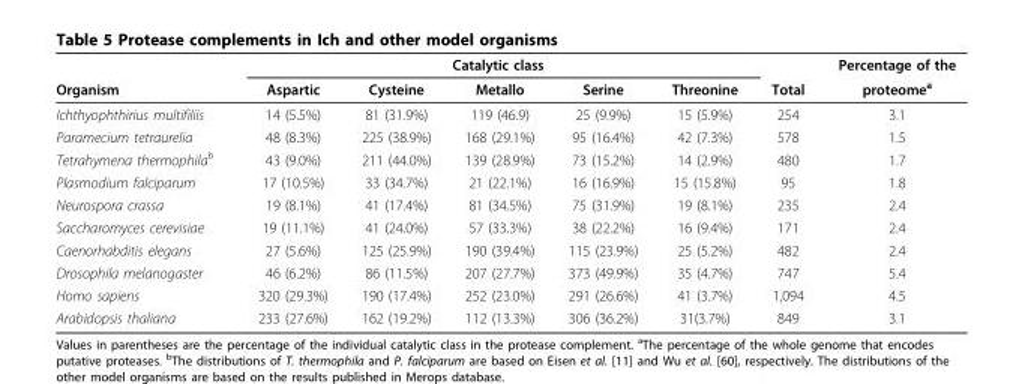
<table><thead><tr><td rowspan="2">Organism</td><td colspan="5">Catalytic class</td><td rowspan="2">Total</td><td rowspan="2">Percentage of the proteome<sup>a</sup></td></tr><tr><td>Aspartic</td><td>Cysteine</td><td>Metallo</td><td>Serine</td><td>Threonine</td></tr></thead><tbody><tr><td>Ichthyophthirius multifiliis</td><td>14 (5.5%)</td><td>81 (31.9%)</td><td>119 (46.9)</td><td>25 (9.9%)</td><td>15 (5.9%)</td><td>254</td><td>3.1</td></tr><tr><td>Paramecium tetraurelia</td><td>48 (8.3%)</td><td>225 (38.9%)</td><td>168 (29.1%)</td><td>95 (16.4%)</td><td>42 (7.3%)</td><td>578</td><td>1.5</td></tr><tr><td>Tetrahymena thermophila<sup>b</sup></td><td>43 (9.0%)</td><td>211 (44.0%)</td><td>139 (28.9%)</td><td>73 (15.2%)</td><td>14 (2.9%)</td><td>480</td><td>1.7</td></tr><tr><td>Plasmodium falciparum</td><td>17 (10.5%)</td><td>33 (34.7%)</td><td>21 (22.1%)</td><td>16 (16.9%)</td><td>15 (15.8%)</td><td>95</td><td>1.8</td></tr><tr><td>Neurospora crassa</td><td>19 (8.1%)</td><td>41 (17.4%)</td><td>81 (34.5%)</td><td>75 (31.9%)</td><td>19 (8.1%)</td><td>235</td><td>2.4</td></tr><tr><td>Saccharomyces cerevisiae</td><td>19 (11.1%)</td><td>41 (24.0%)</td><td>57 (33.3%)</td><td>38 (22.2%)</td><td>16 (9.4%)</td><td>171</td><td>2.4</td></tr><tr><td>Caenorhabditis elegans</td><td>27 (5.6%)</td><td>125 (25.9%)</td><td>190 (39.4%)</td><td>115 (23.9%)</td><td>25 (5.2%)</td><td>482</td><td>2.4</td></tr><tr><td>Drosophila melanogaster</td><td>46 (6.2%)</td><td>86 (11.5%)</td><td>207 (27.7%)</td><td>373 (49.9%)</td><td>35 (4.7%)</td><td>747</td><td>5.4</td></tr><tr><td>Homo sapiens</td><td>320 (29.3%)</td><td>190 (17.4%)</td><td>252 (23.0%)</td><td>291 (26.6%)</td><td>41 (3.7%)</td><td>1,094</td><td>4.5</td></tr><tr><td>Arabidopsis thaliana</td><td>233 (27.6%)</td><td>162 (19.2%)</td><td>112 (13.3%)</td><td>306 (36.2%)</td><td>31(3.7%)</td><td>849</td><td>3.1</td></tr></tbody></table>